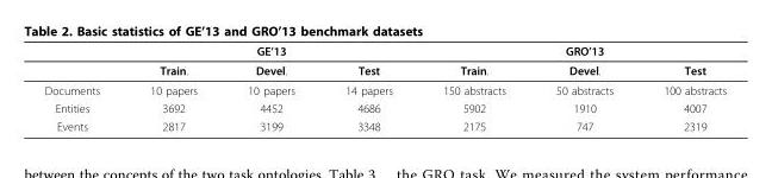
<table><thead><tr><td rowspan="2"></td><td colspan="3">GE’13</td><td rowspan="2">Train.</td><td rowspan="2">GRO’13 Devel.</td><td rowspan="2">Test</td></tr><tr><td>Train.</td><td>Devel.</td><td>Test</td></tr></thead><tbody><tr><td>Documents</td><td>10 papers</td><td>10 papers</td><td>14 papers</td><td>150 abstracts</td><td>50 abstracts</td><td>100 abstracts</td></tr><tr><td>Entities</td><td>3692</td><td>4452</td><td>4686</td><td>5902</td><td>1910</td><td>4007</td></tr><tr><td>Events</td><td>2817</td><td>3199</td><td>3348</td><td>2175</td><td>747</td><td>2319</td></tr></tbody></table>